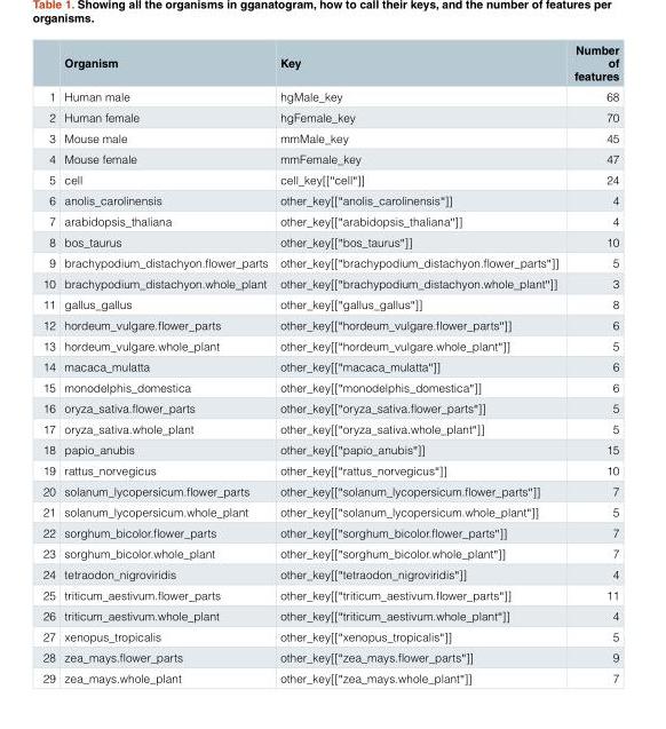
<table><thead><tr><td></td><td>Organism</td><td>Key</td><td>Number of features</td></tr></thead><tbody><tr><td>1</td><td>Human male</td><td>hgMale_key</td><td>68</td></tr><tr><td>2</td><td>Human female</td><td>hgFemale_key</td><td>70</td></tr><tr><td>3</td><td>Mouse male</td><td>mmMale_key</td><td>45</td></tr><tr><td>4</td><td>Mouse female</td><td>mmFemale_key</td><td>47</td></tr><tr><td>5</td><td>cell</td><td>cell_key[[&quot;cell&quot;]]</td><td>24</td></tr><tr><td>6</td><td>anolis_carolinensis</td><td>other_key[[&quot;anolis_carolinensis&quot;]]</td><td>4</td></tr><tr><td>7</td><td>arabidopsis_thaliana</td><td>other_key[[&quot;arabidopsis_thaliana&quot;]]</td><td>4</td></tr><tr><td>8</td><td>bos_taurus</td><td>other_key[[&quot;bos_taurus&quot;]]</td><td>10</td></tr><tr><td>9</td><td>brachypodium_distachyon.flower_parts</td><td>other_key[[&quot;brachypodium_distachyon.flower_parts&quot;]]</td><td>5</td></tr><tr><td>10</td><td>brachypodium_distachyon.whole_plant</td><td>other_key[[&quot;brachypodium_distachyon.whole_plant&quot;]]</td><td>3</td></tr><tr><td>11</td><td>gallus_gallus</td><td>other_key[[&quot;gallus_gallus&quot;]]</td><td>8</td></tr><tr><td>12</td><td>hordeum_vulgare.flower_parts</td><td>other_key[[&quot;hordeum_vulgare.flower_parts&quot;]]</td><td>6</td></tr><tr><td>13</td><td>hordeum_vulgare.whole_plant</td><td>other_key[[&quot;hordeum_vulgare.whole_plant&quot;]]</td><td>5</td></tr><tr><td>14</td><td>macaca_mulatta</td><td>other_key[[&quot;macaca_mulatta&quot;]]</td><td>6</td></tr><tr><td>15</td><td>monodelphis_domestica</td><td>other_key[[&quot;monodelphis_domestica&quot;]]</td><td>6</td></tr><tr><td>16</td><td>oryza_sativa.flower_parts</td><td>other_key[[&quot;oryza_sativa.flower_parts&quot;]]</td><td>5</td></tr><tr><td>17</td><td>oryza_sativa.whole_plant</td><td>other_key[[&quot;oryza_sativa.whole_plant&quot;]]</td><td>5</td></tr><tr><td>18</td><td>papio_anubis</td><td>other_key[[&quot;papio_anubis&quot;]]</td><td>15</td></tr><tr><td>19</td><td>rattus_norvegicus</td><td>other_key[[&quot;rattus_norvegicus&quot;]]</td><td>10</td></tr><tr><td>20</td><td>solanum_lycopersicum.flower_parts</td><td>other_key[[&quot;solanum_lycopersicum.flower_parts&quot;]]</td><td>7</td></tr><tr><td>21</td><td>solanum_lycopersicum.whole_plant</td><td>other_key[[&quot;solanum_lycopersicum.whole_plant&quot;]]</td><td>5</td></tr><tr><td>22</td><td>sorghum_bicolor.flower_parts</td><td>other_key[[&quot;sorghum_bicolor.flower_parts&quot;]]</td><td>7</td></tr><tr><td>23</td><td>sorghum_bicolor.whole_plant</td><td>other_key[[&quot;sorghum_bicolor.whole_plant&quot;]]</td><td>7</td></tr><tr><td>24</td><td>tetraodon_nigroviridis</td><td>other_key[[&quot;tetraodon_nigroviridis&quot;]]</td><td>4</td></tr><tr><td>25</td><td>triticum_aestivum.flower_parts</td><td>other_key[[&quot;triticum_aestivum.flower_parts&quot;]]</td><td>11</td></tr><tr><td>26</td><td>triticum_aestivum.whole_plant</td><td>other_key[[&quot;triticum_aestivum.whole_plant&quot;]]</td><td>4</td></tr><tr><td>27</td><td>xenopus_tropicalis</td><td>other_key[[&quot;xenopus_tropicalis&quot;]]</td><td>5</td></tr><tr><td>28</td><td>zea_mays.flower_parts</td><td>other_key[[&quot;zea_mays.flower_parts&quot;]]</td><td>9</td></tr><tr><td>29</td><td>zea_mays.whole_plant</td><td>other_key[[&quot;zea_mays.whole_plant&quot;]]</td><td>7</td></tr></tbody></table>